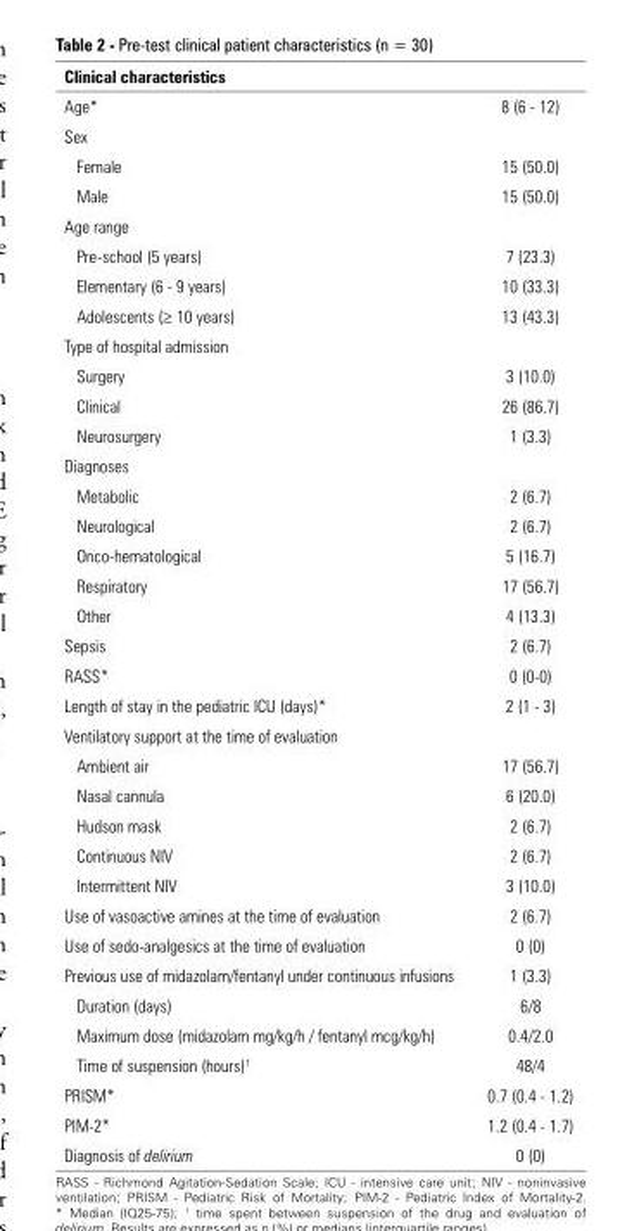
<table><thead><tr><td>Clinical characteristics</td><td></td></tr></thead><tbody><tr><td>Age*</td><td>8 (6 - 12)</td></tr><tr><td colspan="2">Sex</td></tr><tr><td>Female</td><td>15 (50.0)</td></tr><tr><td>Male</td><td>15 (50.0)</td></tr><tr><td colspan="2">Age range</td></tr><tr><td>Pre-school (5 years)</td><td>7 (23.3)</td></tr><tr><td>Elementary (6 - 9 years)</td><td>10 (33.3)</td></tr><tr><td>Adolescents (≥ 10 years)</td><td>13 (43.3)</td></tr><tr><td colspan="2">Type of hospital admission</td></tr><tr><td>Surgery</td><td>3 (10.0)</td></tr><tr><td>Clinical</td><td>26 (86.7)</td></tr><tr><td>Neurosurgery</td><td>1 (3.3)</td></tr><tr><td colspan="2">Diagnoses</td></tr><tr><td>Metabolic</td><td>2 (6.7)</td></tr><tr><td>Neurological</td><td>2 (6.7)</td></tr><tr><td>Onco-hematological</td><td>5 (16.7)</td></tr><tr><td>Respiratory</td><td>17 (56.7)</td></tr><tr><td>Other</td><td>4 (13.3)</td></tr><tr><td>Sepsis</td><td>2 (6.7)</td></tr><tr><td>RASS*</td><td>0 (0-0)</td></tr><tr><td>Length of stay in the pediatric ICU (days)*</td><td>2 (1 - 3)</td></tr><tr><td colspan="2">Ventilatory support at the time of evaluation</td></tr><tr><td>Ambient air</td><td>17 (56.7)</td></tr><tr><td>Nasal cannula</td><td>6 (20.0)</td></tr><tr><td>Hudson mask</td><td>2 (6.7)</td></tr><tr><td>Continuous NIV</td><td>2 (6.7)</td></tr><tr><td>Intermittent NIV</td><td>3 (10.0)</td></tr><tr><td>Use of vasoactive amines at the time of evaluation</td><td>2 (6.7)</td></tr><tr><td>Use of sedo-analgesics at the time of evaluation</td><td>0 (0)</td></tr><tr><td>Previous use of midazolam/fentanyl under continuous infusions</td><td>1 (3.3)</td></tr><tr><td>Duration (days)</td><td>6/8</td></tr><tr><td>Maximum dose (midazolam mg/kg/h / fentanyl mcg/kg/h)</td><td>0.4/2.0</td></tr><tr><td>Time of suspension (hours)<sup>†</sup></td><td>48/4</td></tr><tr><td>PRISM*</td><td>0.7 (0.4 - 1.2)</td></tr><tr><td>PIM-2*</td><td>1.2 (0.4 - 1.7)</td></tr><tr><td>Diagnosis of delirium</td><td>0 (0)</td></tr></tbody></table>